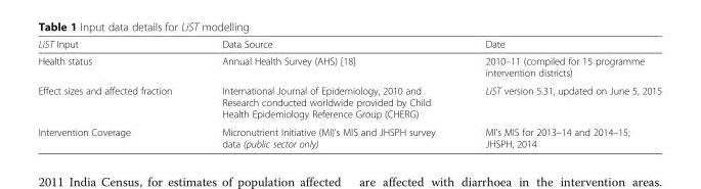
<table><thead><tr><td>LiST Input</td><td>Data Source</td><td>Date</td></tr></thead><tbody><tr><td>Health status</td><td>Annual Health Survey (AHS) [18]</td><td>2010–11 (compiled for 15 programme intervention districts)</td></tr><tr><td>Effect sizes and affected fraction</td><td>International Journal of Epidemiology, 2010 and Research conducted worldwide provided by Child Health Epidemiology Reference Group (CHERG)</td><td>LiST version 5.31, updated on June 5, 2015</td></tr><tr><td>Intervention Coverage</td><td>Micronutrient Initiative (MI)‘s MIS and JHSPH survey data (public sector only)</td><td>MI’s MIS for 2013–14 and 2014–15; JHSPH, 2014</td></tr></tbody></table>